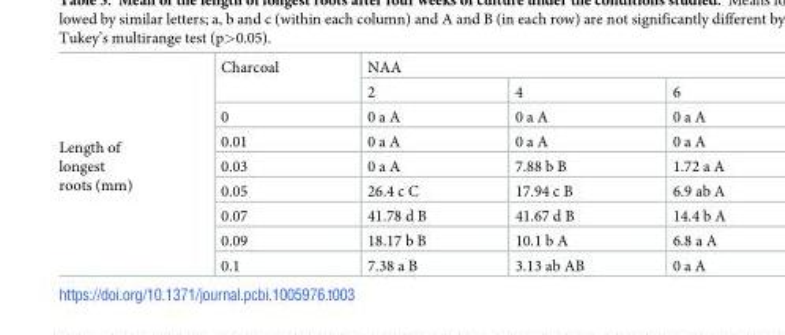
<table><tbody><tr><td rowspan="9">Length of longest roots (mm)</td><td rowspan="2">Charcoal</td><td colspan="3">NAA</td></tr><tr><td>2</td><td>4</td><td>6</td></tr><tr><td>0</td><td>0 a A</td><td>0 a A</td><td>0 a A</td></tr><tr><td>0.01</td><td>0 a A</td><td>0 a A</td><td>0 a A</td></tr><tr><td>0.03</td><td>0 a A</td><td>7.88 b B</td><td>1.72 a A</td></tr><tr><td>0.05</td><td>26.4 c C</td><td>17.94 c B</td><td>6.9 ab A</td></tr><tr><td>0.07</td><td>41.78 d B</td><td>41.67 d B</td><td>14.4 b A</td></tr><tr><td>0.09</td><td>18.17 b B</td><td>10.1 b A</td><td>6.8 a A</td></tr><tr><td>0.1</td><td>7.38 a B</td><td>3.13 ab AB</td><td>0 a A</td></tr></tbody></table>